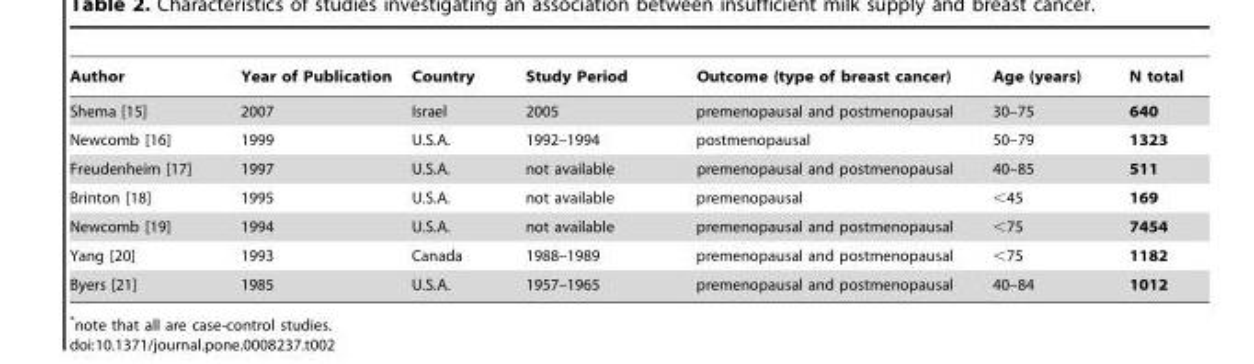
<table><thead><tr><td>Author</td><td>Year of Publication</td><td>Country</td><td>Study Period</td><td>Outcome (type of breast cancer)</td><td>Age (years)</td><td>N total</td></tr></thead><tbody><tr><td>Shema [15]</td><td>2007</td><td>Israel</td><td>2005</td><td>premenopausal and postmenopausal</td><td>30–75</td><td>640</td></tr><tr><td>Newcomb [16]</td><td>1999</td><td>U.S.A.</td><td>1992–1994</td><td>postmenopausal</td><td>50–79</td><td>1323</td></tr><tr><td>Freudenheim [17]</td><td>1997</td><td>U.S.A.</td><td>not available</td><td>premenopausal and postmenopausal</td><td>40–85</td><td>511</td></tr><tr><td>Brinton [18]</td><td>1995</td><td>U.S.A.</td><td>not available</td><td>premenopausal</td><td>&lt;45</td><td>169</td></tr><tr><td>Newcomb [19]</td><td>1994</td><td>U.S.A.</td><td>not available</td><td>premenopausal and postmenopausal</td><td>&lt;75</td><td>7454</td></tr><tr><td>Yang [20]</td><td>1993</td><td>Canada</td><td>1988–1989</td><td>premenopausal and postmenopausal</td><td>&lt;75</td><td>1182</td></tr><tr><td>Byers [21]</td><td>1985</td><td>U.S.A.</td><td>1957–1965</td><td>premenopausal and postmenopausal</td><td>40–84</td><td>1012</td></tr></tbody></table>